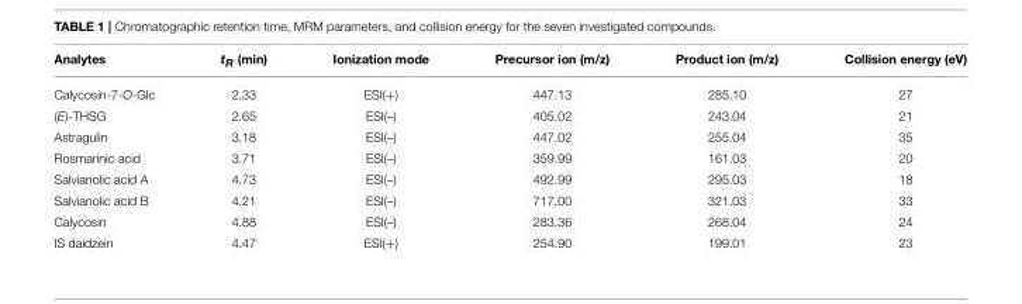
<table><thead><tr><td>Analytes</td><td>tR (min)</td><td>Ionization mode</td><td>Precursor ion (m/z)</td><td>Product ion (m/z)</td><td>Collision energy (eV)</td></tr></thead><tbody><tr><td>Calycosin-7-O-Glc</td><td>2.33</td><td>ESI(+)</td><td>447.13</td><td>285.10</td><td>27</td></tr><tr><td>(E)-THSG</td><td>2.65</td><td>ESI(–)</td><td>405.02</td><td>243.04</td><td>21</td></tr><tr><td>Astragulin</td><td>3.18</td><td>ESI(–)</td><td>447.02</td><td>255.04</td><td>35</td></tr><tr><td>Rosmarinic acid</td><td>3.71</td><td>ESI(–)</td><td>359.99</td><td>161.03</td><td>20</td></tr><tr><td>Salvianolic acid A</td><td>4.73</td><td>ESI(–)</td><td>492.99</td><td>295.03</td><td>18</td></tr><tr><td>Salvianolic acid B</td><td>4.21</td><td>ESI(–)</td><td>717.00</td><td>321.03</td><td>33</td></tr><tr><td>Calycosin</td><td>4.88</td><td>ESI(–)</td><td>283.36</td><td>268.04</td><td>24</td></tr><tr><td>IS daidzein</td><td>4.47</td><td>ESI(+)</td><td>254.90</td><td>199.01</td><td>23</td></tr></tbody></table>